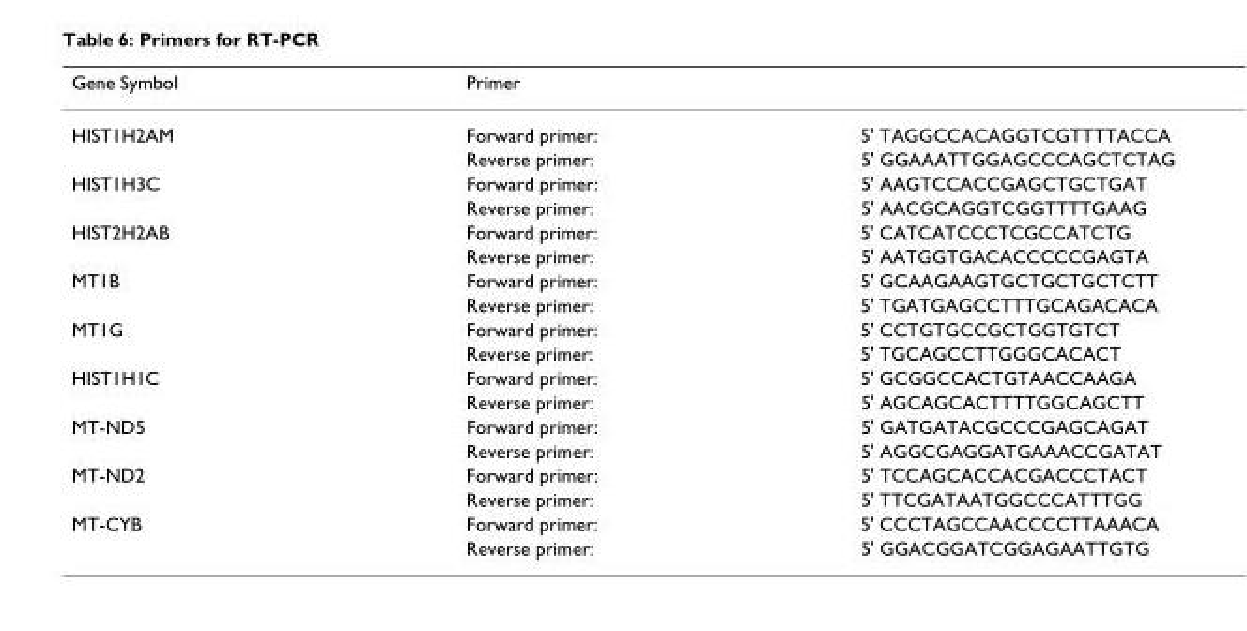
<table><thead><tr><td>Gene Symbol</td><td>Primer</td><td></td></tr></thead><tbody><tr><td rowspan="2">HIST1H2AM</td><td>Forward primer:</td><td>5&#x27; TAGGCCACAGGTCGTTTTACCA</td></tr><tr><td>Reverse primer:</td><td>5&#x27; GGAAATTGGAGCCCAGCTCTAG</td></tr><tr><td rowspan="2">HIST1H3C</td><td>Forward primer:</td><td>5&#x27; AAGTCCACCGAGCTGCTGAT</td></tr><tr><td>Reverse primer:</td><td>5&#x27; AACGCAGGTCGGTTTTGAAG</td></tr><tr><td rowspan="2">HIST2H2AB</td><td>Forward primer:</td><td>5&#x27; CATCATCCCTCGCCATCTG</td></tr><tr><td>Reverse primer:</td><td>5&#x27; AATGGTGACACCCCCGAGTA</td></tr><tr><td rowspan="2">MT1B</td><td>Forward primer:</td><td>5&#x27; GCAAGAAGTGCTGCTGCTCTT</td></tr><tr><td>Reverse primer:</td><td>5&#x27; TGATGAGCCTTTGCAGACACA</td></tr><tr><td rowspan="2">MT1G</td><td>Forward primer:</td><td>5&#x27; CCTGTGCCGCTGGTGTCT</td></tr><tr><td>Reverse primer:</td><td>5&#x27; TGCAGCCTTGGGCACACT</td></tr><tr><td rowspan="2">HIST1H1C</td><td>Forward primer:</td><td>5&#x27; GCGGCCACTGTAACCAAGA</td></tr><tr><td>Reverse primer:</td><td>5&#x27; AGCAGCACTTTTGGCAGCTT</td></tr><tr><td rowspan="2">MT-ND5</td><td>Forward primer:</td><td>5&#x27; GATGATACGCCCGAGCAGAT</td></tr><tr><td>Reverse primer:</td><td>5&#x27; AGGCGAGGATGAAACCGATAT</td></tr><tr><td rowspan="2">MT-ND2</td><td>Forward primer:</td><td>5&#x27; TCCAGCACCACGACCCTACT</td></tr><tr><td>Reverse primer:</td><td>5&#x27; TTCGATAATGGCCCATTTGG</td></tr><tr><td rowspan="2">MT-CYB</td><td>Forward primer:</td><td>5&#x27; CCCTAGCCAACCCCTTAAACA</td></tr><tr><td>Reverse primer:</td><td>5&#x27; GGACGGATCGGAGAATTGTG</td></tr></tbody></table>